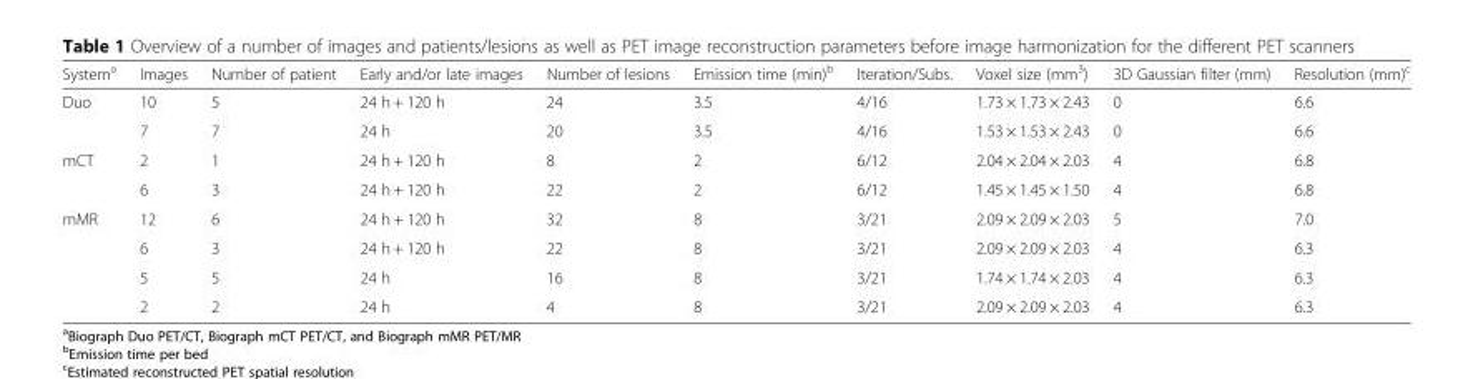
<table><thead><tr><td>System<sup>a</sup></td><td>Images</td><td>Number of patient</td><td>Early and/or late images</td><td>Number of lesions</td><td>Emission time (min)<sup>b</sup></td><td>Iteration/Subs.</td><td>Voxel size (mm<sup>3</sup>)</td><td>3D Gaussian filter (mm)</td><td>Resolution (mm)<sup>c</sup></td></tr></thead><tbody><tr><td rowspan="2">Duo</td><td>10</td><td>5</td><td>24 h + 120 h</td><td>24</td><td>3.5</td><td>4/16</td><td>1.73 × 1.73 × 2.43</td><td>0</td><td>6.6</td></tr><tr><td>7</td><td>7</td><td>24 h</td><td>20</td><td>3.5</td><td>4/16</td><td>1.53 × 1.53 × 2.43</td><td>0</td><td>6.6</td></tr><tr><td rowspan="2">mCT</td><td>2</td><td>1</td><td>24 h + 120 h</td><td>8</td><td>2</td><td>6/12</td><td>2.04 × 2.04 × 2.03</td><td>4</td><td>6.8</td></tr><tr><td>6</td><td>3</td><td>24 h + 120 h</td><td>22</td><td>2</td><td>6/12</td><td>1.45 × 1.45 × 1.50</td><td>4</td><td>6.8</td></tr><tr><td rowspan="4">mMR</td><td>12</td><td>6</td><td>24 h + 120 h</td><td>32</td><td>8</td><td>3/21</td><td>2.09 × 2.09 × 2.03</td><td>5</td><td>7.0</td></tr><tr><td>6</td><td>3</td><td>24 h + 120 h</td><td>22</td><td>8</td><td>3/21</td><td>2.09 × 2.09 × 2.03</td><td>4</td><td>6.3</td></tr><tr><td>5</td><td>5</td><td>24 h</td><td>16</td><td>8</td><td>3/21</td><td>1.74 × 1.74 × 2.03</td><td>4</td><td>6.3</td></tr><tr><td>2</td><td>2</td><td>24 h</td><td>4</td><td>8</td><td>3/21</td><td>2.09 × 2.09 × 2.03</td><td>4</td><td>6.3</td></tr></tbody></table>